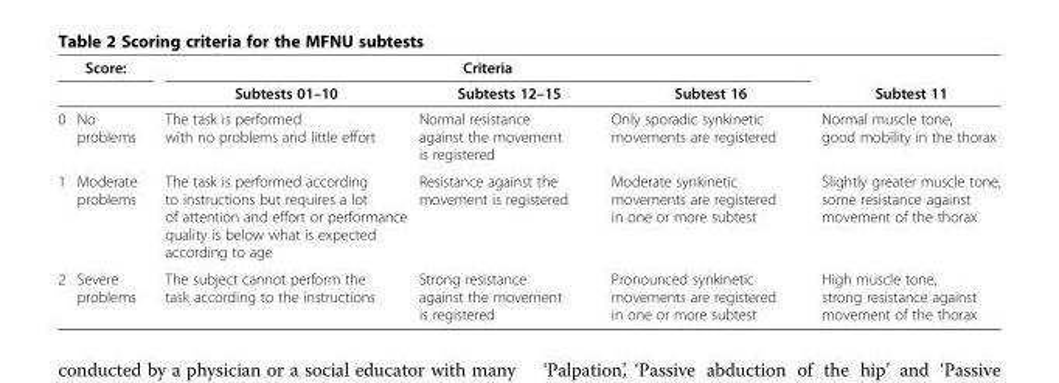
<table><thead><tr><td rowspan="2"></td><td rowspan="2">Score:</td><td colspan="3">Criteria</td><td rowspan="2">Subtest 11</td></tr><tr><td>Subtests 01–10</td><td>Subtests 12–15</td><td>Subtest 16</td></tr></thead><tbody><tr><td>0</td><td>No problems</td><td>The task is performed with no problems and little effort</td><td>Normal resistance against the movement is registered</td><td>Only sporadic synkinetic movements are registered</td><td>Normal muscle tone, good mobility in the thorax</td></tr><tr><td>1</td><td>Moderate problems</td><td>The task is performed according to instructions but requires a lot of attention and effort or performance quality is below what is expected according to age</td><td>Resistance against the movement is registered</td><td>Moderate synkinetic movements are registered in one or more subtest</td><td>Slightly greater muscle tone, some resistance against movement of the thorax</td></tr><tr><td>2</td><td>Severe problems</td><td>The subject cannot perform the task according to the instructions</td><td>Strong resistance against the movement is registered</td><td>Pronounced synkinetic movements are registered in one or more subtest</td><td>High muscle tone, strong resistance against movement of the thorax</td></tr></tbody></table>